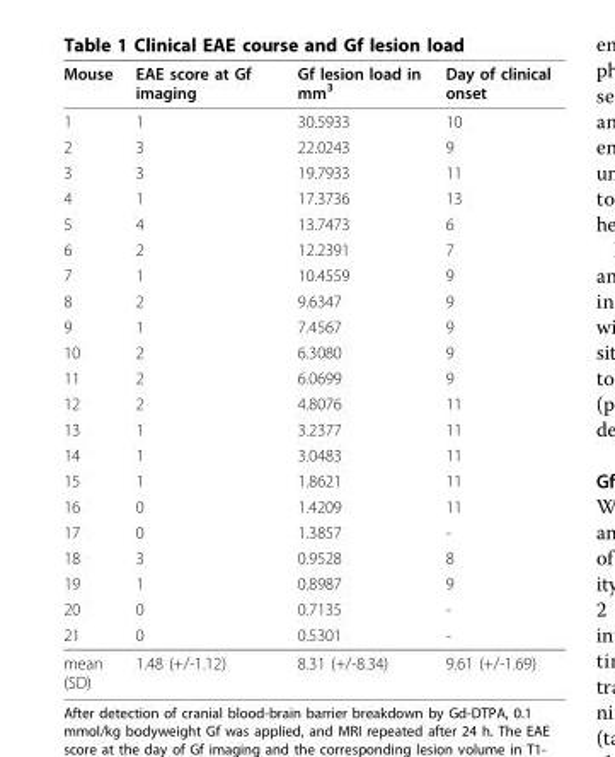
<table><thead><tr><td>Mouse</td><td>EAE score at Gf imaging</td><td>Gf lesion load in mm<sup>3</sup></td><td>Day of clinical onset</td></tr></thead><tbody><tr><td>1</td><td>1</td><td>30.5933</td><td>10</td></tr><tr><td>2</td><td>3</td><td>22.0243</td><td>9</td></tr><tr><td>3</td><td>3</td><td>19.7933</td><td>11</td></tr><tr><td>4</td><td>1</td><td>17.3736</td><td>13</td></tr><tr><td>5</td><td>4</td><td>13.7473</td><td>6</td></tr><tr><td>6</td><td>2</td><td>12.2391</td><td>7</td></tr><tr><td>7</td><td>1</td><td>10.4559</td><td>9</td></tr><tr><td>8</td><td>2</td><td>9.6347</td><td>9</td></tr><tr><td>9</td><td>1</td><td>7.4567</td><td>9</td></tr><tr><td>10</td><td>2</td><td>6.3080</td><td>9</td></tr><tr><td>11</td><td>2</td><td>6.0699</td><td>9</td></tr><tr><td>12</td><td>2</td><td>4.8076</td><td>11</td></tr><tr><td>13</td><td>1</td><td>3.2377</td><td>11</td></tr><tr><td>14</td><td>1</td><td>3.0483</td><td>11</td></tr><tr><td>15</td><td>1</td><td>1.8621</td><td>11</td></tr><tr><td>16</td><td>0</td><td>1.4209</td><td>11</td></tr><tr><td>17</td><td>0</td><td>1.3857</td><td>-</td></tr><tr><td>18</td><td>3</td><td>0.9528</td><td>8</td></tr><tr><td>19</td><td>1</td><td>0.8987</td><td>9</td></tr><tr><td>20</td><td>0</td><td>0.7135</td><td>-</td></tr><tr><td>21</td><td>0</td><td>0.5301</td><td>-</td></tr><tr><td>mean (SD)</td><td>1.48 (+/-1.12)</td><td>8.31 (+/-8.34)</td><td>9.61 (+/-1.69)</td></tr></tbody></table>